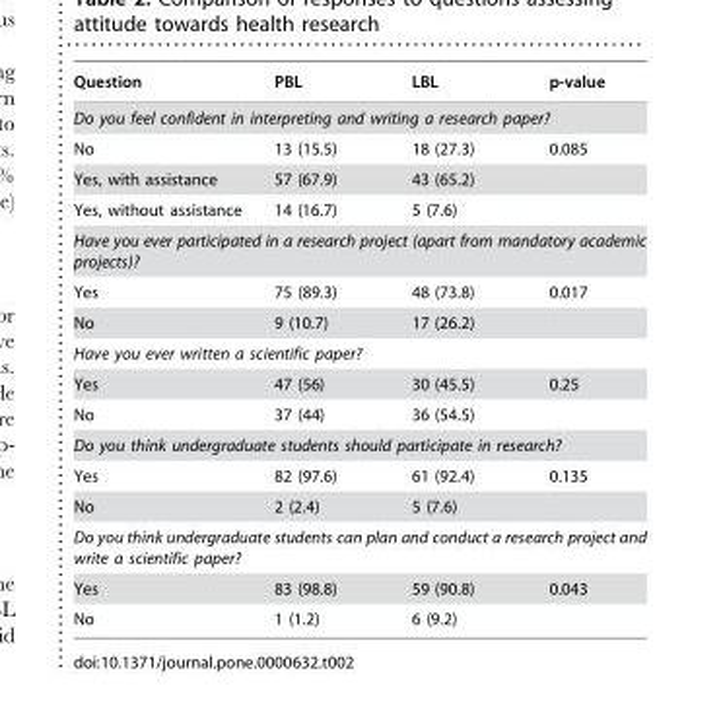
<table><thead><tr><td>Question</td><td>PBL</td><td>LBL</td><td>p-value</td></tr></thead><tbody><tr><td colspan="4">Do you feel confident in interpreting and writing a research paper?</td></tr><tr><td>No</td><td>13 (15.5)</td><td>18 (27.3)</td><td>0.085</td></tr><tr><td>Yes, with assistance</td><td>57 (67.9)</td><td>43 (65.2)</td><td></td></tr><tr><td>Yes, without assistance</td><td>14 (16.7)</td><td>5 (7.6)</td><td></td></tr><tr><td colspan="4">Have you ever participated in a research project (apart from mandatory academic projects)?</td></tr><tr><td>Yes</td><td>75 (89.3)</td><td>48 (73.8)</td><td>0.017</td></tr><tr><td>No</td><td>9 (10.7)</td><td>17 (26.2)</td><td></td></tr><tr><td colspan="4">Have you ever written a scientific paper?</td></tr><tr><td>Yes</td><td>47 (56)</td><td>30 (45.5)</td><td>0.25</td></tr><tr><td>No</td><td>37 (44)</td><td>36 (54.5)</td><td></td></tr><tr><td colspan="4">Do you think undergraduate students should participate in research?</td></tr><tr><td>Yes</td><td>82 (97.6)</td><td>61 (92.4)</td><td>0.135</td></tr><tr><td>No</td><td>2 (2.4)</td><td>5 (7.6)</td><td></td></tr><tr><td colspan="4">Do you think undergraduate students can plan and conduct a research project and write a scientific paper?</td></tr><tr><td>Yes</td><td>83 (98.8)</td><td>59 (90.8)</td><td>0.043</td></tr><tr><td>No</td><td>1 (1.2)</td><td>6 (9.2)</td><td></td></tr></tbody></table>